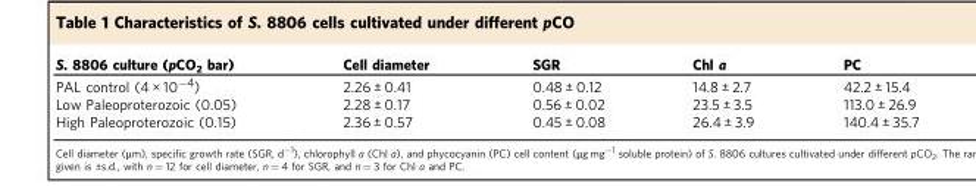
<table><thead><tr><td>S. 8806 culture (pCO<sub>2</sub> bar)</td><td>Cell diameter</td><td>SGR</td><td>Chl a</td><td>PC</td></tr></thead><tbody><tr><td>PAL control (4 × 10<sup>−4</sup>)</td><td>2.26 ± 0.41</td><td>0.48 ± 0.12</td><td>14.8 ± 2.7</td><td>42.2 ± 15.4</td></tr><tr><td>Low Paleoproterozoic (0.05)</td><td>2.28 ± 0.17</td><td>0.56 ± 0.02</td><td>23.5 ± 3.5</td><td>113.0 ± 26.9</td></tr><tr><td>High Paleoproterozoic (0.15)</td><td>2.36 ± 0.57</td><td>0.45 ± 0.08</td><td>26.4 ± 3.9</td><td>140.4 ± 35.7</td></tr></tbody></table>